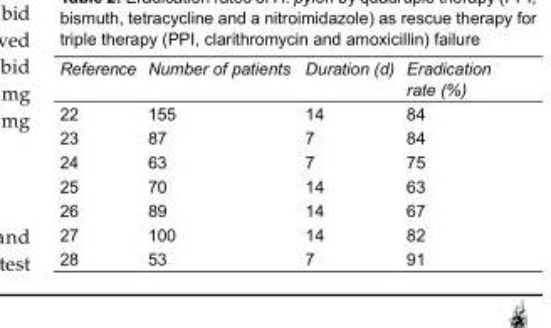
<table><tbody><tr><td>Reference</td><td>Number of patients</td><td>Duration (d)</td><td>Eradication rate (%)</td></tr><tr><td>22</td><td>155</td><td>14</td><td>84</td></tr><tr><td>23</td><td>87</td><td>7</td><td>84</td></tr><tr><td>24</td><td>63</td><td>7</td><td>75</td></tr><tr><td>25</td><td>70</td><td>14</td><td>63</td></tr><tr><td>26</td><td>89</td><td>14</td><td>67</td></tr><tr><td>27</td><td>100</td><td>14</td><td>82</td></tr><tr><td>28</td><td>53</td><td>7</td><td>91</td></tr></tbody></table>